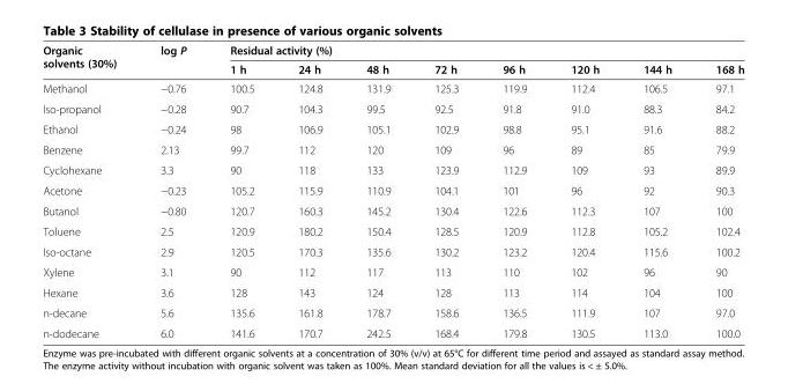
<table><thead><tr><td rowspan="2">Organic solvents (30%)</td><td rowspan="2">log P</td><td colspan="8">Residual activity (%)</td></tr><tr><td>1 h</td><td>24 h</td><td>48 h</td><td>72 h</td><td>96 h</td><td>120 h</td><td>144 h</td><td>168 h</td></tr></thead><tbody><tr><td>Methanol</td><td>−0.76</td><td>100.5</td><td>124.8</td><td>131.9</td><td>125.3</td><td>119.9</td><td>112.4</td><td>106.5</td><td>97.1</td></tr><tr><td>Iso-propanol</td><td>−0.28</td><td>90.7</td><td>104.3</td><td>99.5</td><td>92.5</td><td>91.8</td><td>91.0</td><td>88.3</td><td>84.2</td></tr><tr><td>Ethanol</td><td>−0.24</td><td>98</td><td>106.9</td><td>105.1</td><td>102.9</td><td>98.8</td><td>95.1</td><td>91.6</td><td>88.2</td></tr><tr><td>Benzene</td><td>2.13</td><td>99.7</td><td>112</td><td>120</td><td>109</td><td>96</td><td>89</td><td>85</td><td>79.9</td></tr><tr><td>Cyclohexane</td><td>3.3</td><td>90</td><td>118</td><td>133</td><td>123.9</td><td>112.9</td><td>109</td><td>93</td><td>89.9</td></tr><tr><td>Acetone</td><td>−0.23</td><td>105.2</td><td>115.9</td><td>110.9</td><td>104.1</td><td>101</td><td>96</td><td>92</td><td>90.3</td></tr><tr><td>Butanol</td><td>−0.80</td><td>120.7</td><td>160.3</td><td>145.2</td><td>130.4</td><td>122.6</td><td>112.3</td><td>107</td><td>100</td></tr><tr><td>Toluene</td><td>2.5</td><td>120.9</td><td>180.2</td><td>150.4</td><td>128.5</td><td>120.9</td><td>112.8</td><td>105.2</td><td>102.4</td></tr><tr><td>Iso-octane</td><td>2.9</td><td>120.5</td><td>170.3</td><td>135.6</td><td>130.2</td><td>123.2</td><td>120.4</td><td>115.6</td><td>100.2</td></tr><tr><td>Xylene</td><td>3.1</td><td>90</td><td>112</td><td>117</td><td>113</td><td>110</td><td>102</td><td>96</td><td>90</td></tr><tr><td>Hexane</td><td>3.6</td><td>128</td><td>143</td><td>124</td><td>128</td><td>113</td><td>114</td><td>104</td><td>100</td></tr><tr><td>n-decane</td><td>5.6</td><td>135.6</td><td>161.8</td><td>178.7</td><td>158.6</td><td>136.5</td><td>111.9</td><td>107</td><td>97.0</td></tr><tr><td>n-dodecane</td><td>6.0</td><td>141.6</td><td>170.7</td><td>242.5</td><td>168.4</td><td>179.8</td><td>130.5</td><td>113.0</td><td>100.0</td></tr></tbody></table>